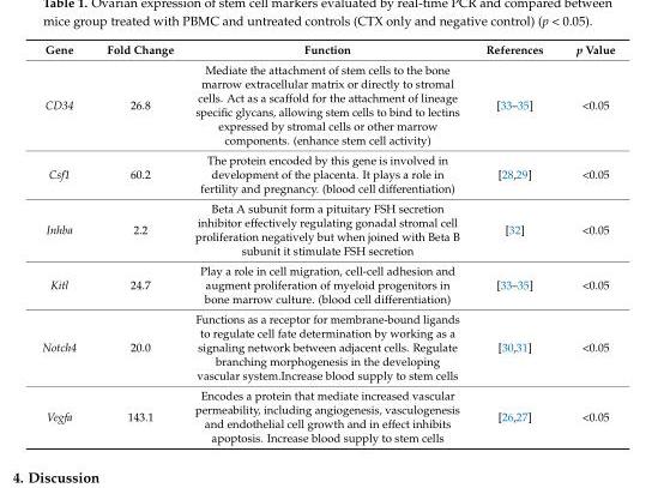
<table><thead><tr><td>Gene</td><td>Fold Change</td><td>Function</td><td>References</td><td>p Value</td></tr></thead><tbody><tr><td>CD34</td><td>26.8</td><td>Mediate the attachment of stem cells to the bone marrow extracellular matrix or directly to stromal cells. Act as a scaffold for the attachment of lineage specific glycans, allowing stem cells to bind to lectins expressed by stromal cells or other marrow components. (enhance stem cell activity)</td><td>[33–35]</td><td>&lt;0.05</td></tr><tr><td>Csf1</td><td>60.2</td><td>The protein encoded by this gene is involved in development of the placenta. It plays a role in fertility and pregnancy. (blood cell differentiation)</td><td>[28,29]</td><td>&lt;0.05</td></tr><tr><td>Inhba</td><td>2.2</td><td>Beta A subunit form a pituitary FSH secretion inhibitor effectively regulating gonadal stromal cell proliferation negatively but when joined with Beta B subunit it stimulate FSH secretion</td><td>[32]</td><td>&lt;0.05</td></tr><tr><td>Kitl</td><td>24.7</td><td>Play a role in cell migration, cell-cell adhesion and augment proliferation of myeloid progenitors in bone marrow culture. (blood cell differentiation)</td><td>[33–35]</td><td>&lt;0.05</td></tr><tr><td>Notch4</td><td>20.0</td><td>Functions as a receptor for membrane-bound ligands to regulate cell fate determination by working as a signaling network between adjacent cells. Regulate branching morphogenesis in the developing vascular system.Increase blood supply to stem cells</td><td>[30,31]</td><td>&lt;0.05</td></tr><tr><td>Vegfa</td><td>143.1</td><td>Encodes a protein that mediate increased vascular permeability, including angiogenesis, vasculogenesis and endothelial cell growth and in effect inhibits apoptosis. Increase blood supply to stem cells</td><td>[26,27]</td><td>&lt;0.05</td></tr></tbody></table>